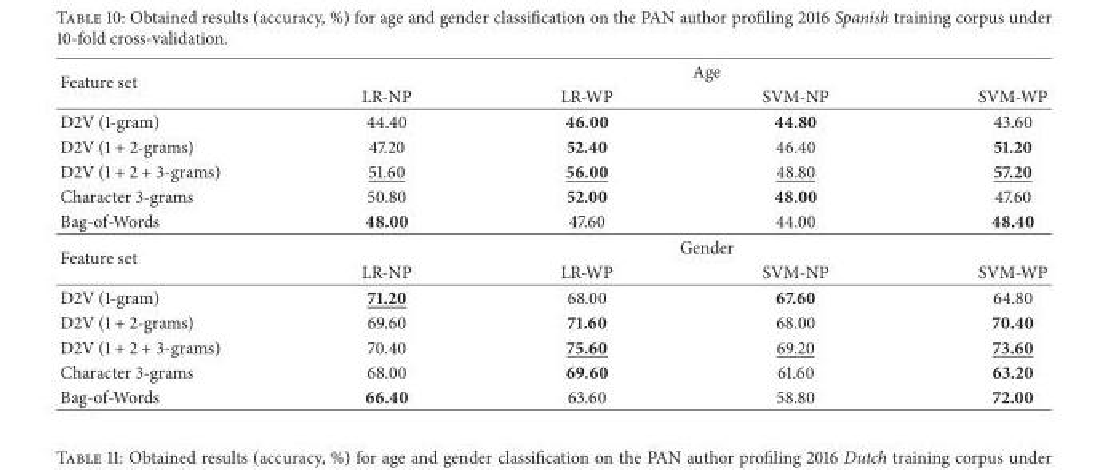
<table><thead><tr><td rowspan="2">Feature set</td><td colspan="4">Age</td></tr><tr><td>LR-NP</td><td>LR-WP</td><td>SVM-NP</td><td>SVM-WP</td></tr></thead><tbody><tr><td>D2V (1-gram)</td><td>44.40</td><td>46.00</td><td>44.80</td><td>43.60</td></tr><tr><td>D2V (1 + 2-grams)</td><td>47.20</td><td>52.40</td><td>46.40</td><td>51.20</td></tr><tr><td>D2V (1 + 2 + 3-grams)</td><td>51.60</td><td>56.00</td><td>48.80</td><td>57.20</td></tr><tr><td>Character 3-grams</td><td>50.80</td><td>52.00</td><td>48.00</td><td>47.60</td></tr><tr><td>Bag-of-Words</td><td>48.00</td><td>47.60</td><td>44.00</td><td>48.40</td></tr><tr><td rowspan="2">Feature set</td><td colspan="4">Gender</td></tr><tr><td>LR-NP</td><td>LR-WP</td><td>SVM-NP</td><td>SVM-WP</td></tr><tr><td>D2V (1-gram)</td><td>71.20</td><td>68.00</td><td>67.60</td><td>64.80</td></tr><tr><td>D2V (1 + 2-grams)</td><td>69.60</td><td>71.60</td><td>68.00</td><td>70.40</td></tr><tr><td>D2V (1 + 2 + 3-grams)</td><td>70.40</td><td>75.60</td><td>69.20</td><td>73.60</td></tr><tr><td>Character 3-grams</td><td>68.00</td><td>69.60</td><td>61.60</td><td>63.20</td></tr><tr><td>Bag-of-Words</td><td>66.40</td><td>63.60</td><td>58.80</td><td>72.00</td></tr></tbody></table>